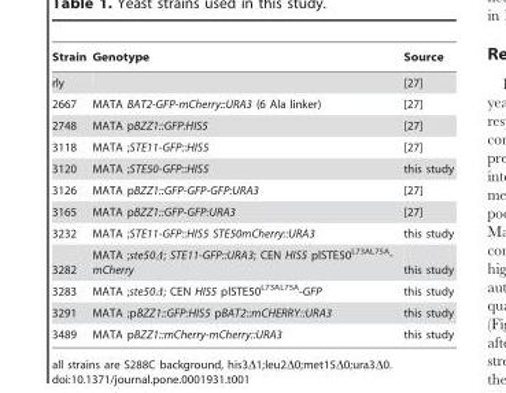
<table><thead><tr><td>Strain</td><td>Genotype</td><td>Source</td></tr></thead><tbody><tr><td>rly</td><td></td><td>[27]</td></tr><tr><td>2667</td><td>MATA BAT2-GFP-mCherry::URA3 (6 Ala linker)</td><td>[27]</td></tr><tr><td>2748</td><td>MATA pBZZ1::GFP:HIS5</td><td>[27]</td></tr><tr><td>3118</td><td>MATA ;STE11-GFP::HIS5</td><td>[27]</td></tr><tr><td>3120</td><td>MATA ;STE50-GFP::HIS5</td><td>this study</td></tr><tr><td>3126</td><td>MATA pBZZ1::GFP-GFP-GFP:URA3</td><td>[27]</td></tr><tr><td>3165</td><td>MATA pBZZ1::GFP-GFP:URA3</td><td>[27]</td></tr><tr><td>3232</td><td>MATA ;STE11-GFP::HIS5 STE50mCherry::URA3</td><td>this study</td></tr><tr><td>3282</td><td>MATA ;ste50Δ; STE11-GFP::URA3; CEN HIS5 plSTE50<sup>L73AL75A</sup>- mCherry</td><td>this study</td></tr><tr><td>3283</td><td>MATA ;ste50Δ; CEN HIS5 plSTE50<sup>L73AL75A</sup>-GFP</td><td>this study</td></tr><tr><td>3291</td><td>MATA ;pBZZ1::GFP:HIS5 pBAT2::mCHERRY::URA3</td><td>this study</td></tr><tr><td>3489</td><td>MATA pBZZ1::mCherry-mCherry::URA3</td><td>this study</td></tr></tbody></table>